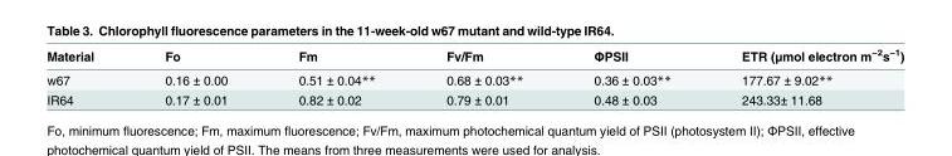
<table><thead><tr><td>Material</td><td>Fo</td><td>Fm</td><td>Fv/Fm</td><td>ΦPSII</td><td>ETR (μmol electron m<sup>−2</sup>s<sup>−1</sup>)</td></tr></thead><tbody><tr><td>w67</td><td>0.16 ± 0.00</td><td>0.51 ± 0.04**</td><td>0.68 ± 0.03**</td><td>0.36 ± 0.03**</td><td>177.67 ± 9.02**</td></tr><tr><td>IR64</td><td>0.17 ± 0.01</td><td>0.82 ± 0.02</td><td>0.79 ± 0.01</td><td>0.48 ± 0.03</td><td>243.33± 11.68</td></tr></tbody></table>